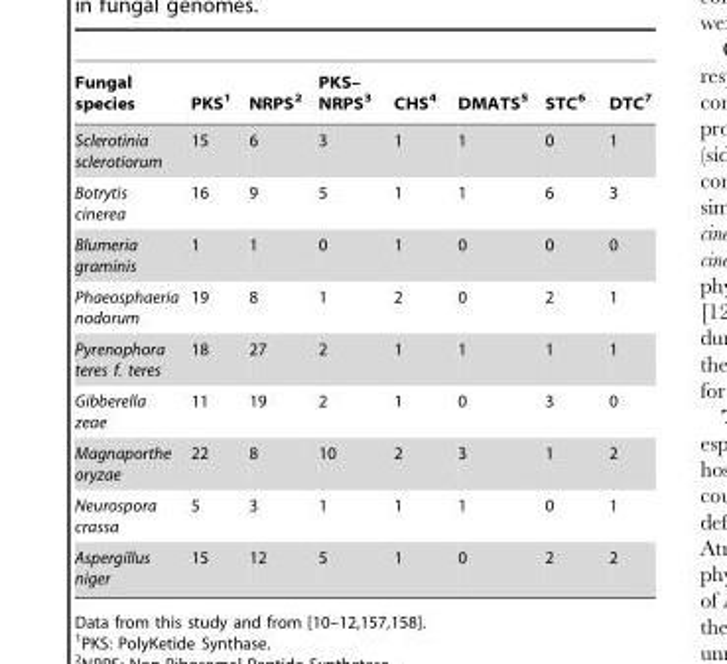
<table><thead><tr><td>Fungal species</td><td>PKS<sup>1</sup></td><td>NRPS<sup>2</sup></td><td>PKS– NRPS<sup>3</sup></td><td>CHS<sup>4</sup></td><td>DMATS<sup>5</sup></td><td>STC<sup>6</sup></td><td>DTC<sup>7</sup></td></tr></thead><tbody><tr><td>Sclerotinia sclerotiorum</td><td>15</td><td>6</td><td>3</td><td>1</td><td>1</td><td>0</td><td>1</td></tr><tr><td>Botrytis cinerea</td><td>16</td><td>9</td><td>5</td><td>1</td><td>1</td><td>6</td><td>3</td></tr><tr><td>Blumeria graminis</td><td>1</td><td>1</td><td>0</td><td>1</td><td>0</td><td>0</td><td>0</td></tr><tr><td>Phaeosphaeria nodorum</td><td>19</td><td>8</td><td>1</td><td>2</td><td>0</td><td>2</td><td>1</td></tr><tr><td>Pyrenophora teres f. teres</td><td>18</td><td>27</td><td>2</td><td>1</td><td>1</td><td>1</td><td>1</td></tr><tr><td>Gibberella zeae</td><td>11</td><td>19</td><td>2</td><td>1</td><td>0</td><td>3</td><td>0</td></tr><tr><td>Magnaporthe oryzae</td><td>22</td><td>8</td><td>10</td><td>2</td><td>3</td><td>1</td><td>2</td></tr><tr><td>Neurospora crassa</td><td>5</td><td>3</td><td>1</td><td>1</td><td>1</td><td>0</td><td>1</td></tr><tr><td>Aspergillus niger</td><td>15</td><td>12</td><td>5</td><td>1</td><td>0</td><td>2</td><td>2</td></tr></tbody></table>